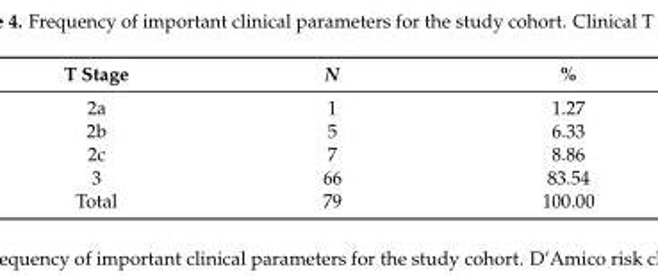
<table><thead><tr><td>T Stage</td><td>N</td><td>%</td></tr></thead><tbody><tr><td>2a</td><td>1</td><td>1.27</td></tr><tr><td>2b</td><td>5</td><td>6.33</td></tr><tr><td>2c</td><td>7</td><td>8.86</td></tr><tr><td>3</td><td>66</td><td>83.54</td></tr><tr><td>Total</td><td>79</td><td>100.00</td></tr></tbody></table>